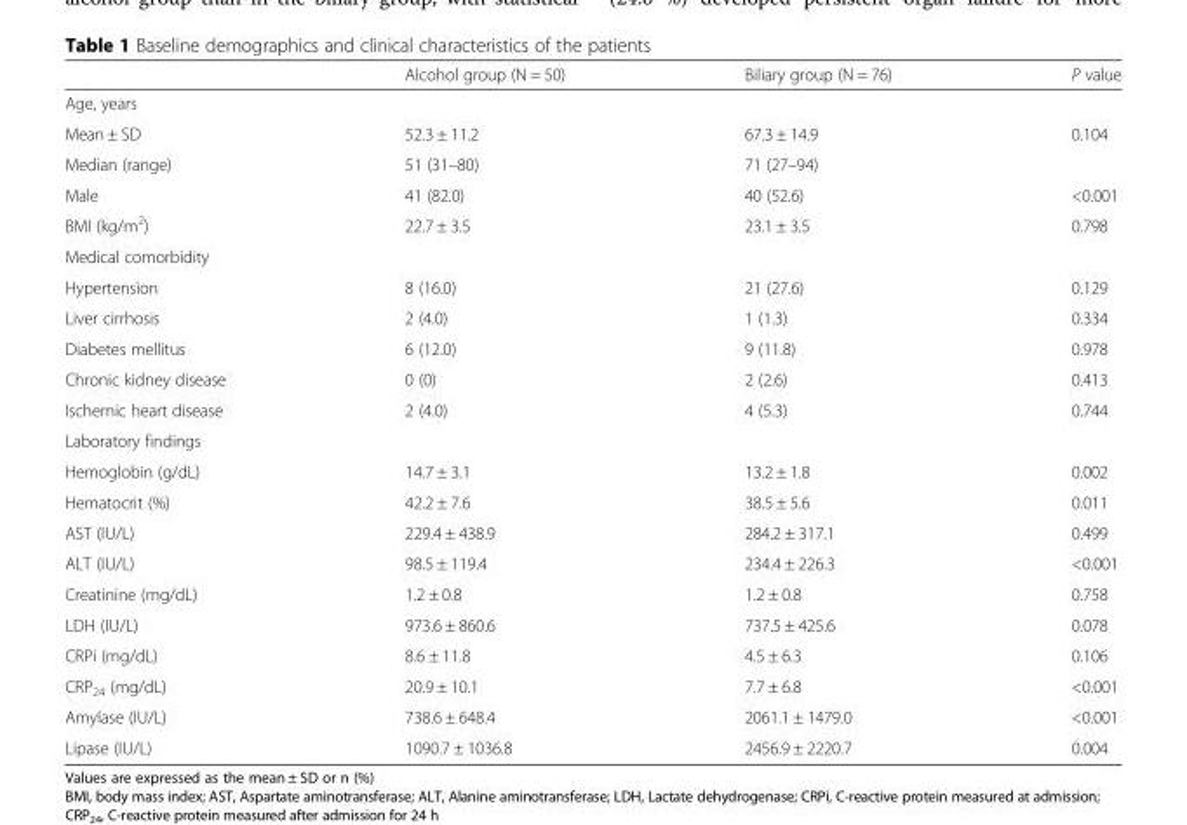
<table><thead><tr><td></td><td>Alcohol group (N = 50)</td><td>Biliary group (N = 76)</td><td>P value</td></tr></thead><tbody><tr><td colspan="4">Age, years</td></tr><tr><td>Mean ± SD</td><td>52.3 ± 11.2</td><td>67.3 ± 14.9</td><td>0.104</td></tr><tr><td>Median (range)</td><td>51 (31–80)</td><td>71 (27–94)</td><td></td></tr><tr><td>Male</td><td>41 (82.0)</td><td>40 (52.6)</td><td>&lt;0.001</td></tr><tr><td>BMI (kg/m<sup>2</sup>)</td><td>22.7 ± 3.5</td><td>23.1 ± 3.5</td><td>0.798</td></tr><tr><td colspan="4">Medical comorbidity</td></tr><tr><td>Hypertension</td><td>8 (16.0)</td><td>21 (27.6)</td><td>0.129</td></tr><tr><td>Liver cirrhosis</td><td>2 (4.0)</td><td>1 (1.3)</td><td>0.334</td></tr><tr><td>Diabetes mellitus</td><td>6 (12.0)</td><td>9 (11.8)</td><td>0.978</td></tr><tr><td>Chronic kidney disease</td><td>0 (0)</td><td>2 (2.6)</td><td>0.413</td></tr><tr><td>Ischemic heart disease</td><td>2 (4.0)</td><td>4 (5.3)</td><td>0.744</td></tr><tr><td colspan="4">Laboratory findings</td></tr><tr><td>Hemoglobin (g/dL)</td><td>14.7 ± 3.1</td><td>13.2 ± 1.8</td><td>0.002</td></tr><tr><td>Hematocrit (%)</td><td>42.2 ± 7.6</td><td>38.5 ± 5.6</td><td>0.011</td></tr><tr><td>AST (IU/L)</td><td>229.4 ± 438.9</td><td>284.2 ± 317.1</td><td>0.499</td></tr><tr><td>ALT (IU/L)</td><td>98.5 ± 119.4</td><td>234.4 ± 226.3</td><td>&lt;0.001</td></tr><tr><td>Creatinine (mg/dL)</td><td>1.2 ± 0.8</td><td>1.2 ± 0.8</td><td>0.758</td></tr><tr><td>LDH (IU/L)</td><td>973.6 ± 860.6</td><td>737.5 ± 425.6</td><td>0.078</td></tr><tr><td>CRPi (mg/dL)</td><td>8.6 ± 11.8</td><td>4.5 ± 6.3</td><td>0.106</td></tr><tr><td>CRP<sub>24</sub> (mg/dL)</td><td>20.9 ± 10.1</td><td>7.7 ± 6.8</td><td>&lt;0.001</td></tr><tr><td>Amylase (IU/L)</td><td>738.6 ± 648.4</td><td>2061.1 ± 1479.0</td><td>&lt;0.001</td></tr><tr><td>Lipase (IU/L)</td><td>1090.7 ± 1036.8</td><td>2456.9 ± 2220.7</td><td>0.004</td></tr></tbody></table>